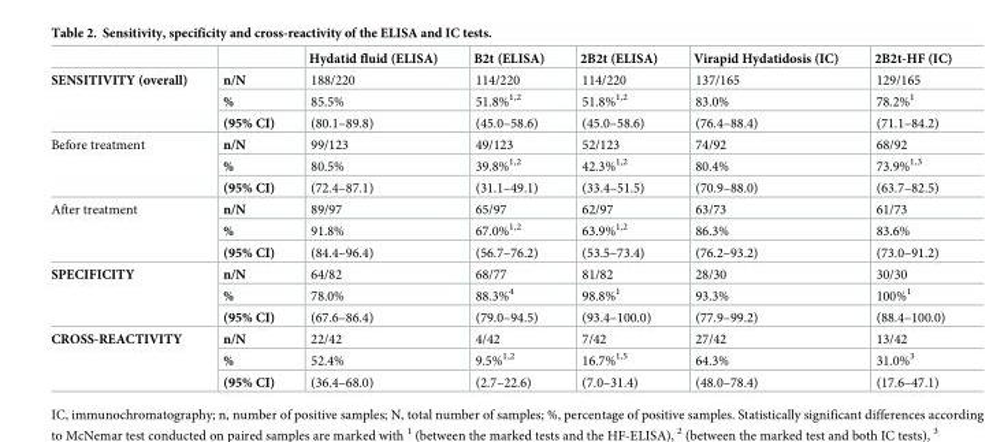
<table><thead><tr><td></td><td></td><td>Hydatid fluid (ELISA)</td><td>B2t (ELISA)</td><td>2B2t (ELISA)</td><td>Virapid Hydatidosis (IC)</td><td>2B2t-HF (IC)</td></tr></thead><tbody><tr><td rowspan="3">SENSITIVITY (overall)</td><td>n/N</td><td>188/220</td><td>114/220</td><td>114/220</td><td>137/165</td><td>129/165</td></tr><tr><td>%</td><td>85.5%</td><td>51.8%<sup>1,2</sup></td><td>51.8%<sup>1,2</sup></td><td>83.0%</td><td>78.2%<sup>1</sup></td></tr><tr><td>(95% CI)</td><td>(80.1–89.8)</td><td>(45.0–58.6)</td><td>(45.0–58.6)</td><td>(76.4–88.4)</td><td>(71.1–84.2)</td></tr><tr><td rowspan="3">Before treatment</td><td>n/N</td><td>99/123</td><td>49/123</td><td>52/123</td><td>74/92</td><td>68/92</td></tr><tr><td>%</td><td>80.5%</td><td>39.8%<sup>1,2</sup></td><td>42.3%<sup>1,2</sup></td><td>80.4%</td><td>73.9%<sup>1,3</sup></td></tr><tr><td>(95% CI)</td><td>(72.4–87.1)</td><td>(31.1–49.1)</td><td>(33.4–51.5)</td><td>(70.9–88.0)</td><td>(63.7–82.5)</td></tr><tr><td rowspan="3">After treatment</td><td>n/N</td><td>89/97</td><td>65/97</td><td>62/97</td><td>63/73</td><td>61/73</td></tr><tr><td>%</td><td>91.8%</td><td>67.0%<sup>1,2</sup></td><td>63.9%<sup>1,2</sup></td><td>86.3%</td><td>83.6%</td></tr><tr><td>(95% CI)</td><td>(84.4–96.4)</td><td>(56.7–76.2)</td><td>(53.5–73.4)</td><td>(76.2–93.2)</td><td>(73.0–91.2)</td></tr><tr><td rowspan="3">SPECIFICITY</td><td>n/N</td><td>64/82</td><td>68/77</td><td>81/82</td><td>28/30</td><td>30/30</td></tr><tr><td>%</td><td>78.0%</td><td>88.3%<sup>4</sup></td><td>98.8%<sup>1</sup></td><td>93.3%</td><td>100%<sup>1</sup></td></tr><tr><td>(95% CI)</td><td>(67.6–86.4)</td><td>(79.0–94.5)</td><td>(93.4–100.0)</td><td>(77.9–99.2)</td><td>(88.4–100.0)</td></tr><tr><td rowspan="3">CROSS-REACTIVITY</td><td>n/N</td><td>22/42</td><td>4/42</td><td>7/42</td><td>27/42</td><td>13/42</td></tr><tr><td>%</td><td>52.4%</td><td>9.5%<sup>1,2</sup></td><td>16.7%<sup>1,5</sup></td><td>64.3%</td><td>31.0%<sup>3</sup></td></tr><tr><td>(95% CI)</td><td>(36.4–68.0)</td><td>(2.7–22.6)</td><td>(7.0–31.4)</td><td>(48.0–78.4)</td><td>(17.6–47.1)</td></tr></tbody></table>